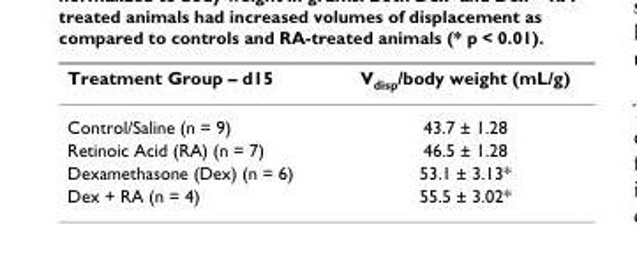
<table><thead><tr><td>Treatment Group – d15</td><td>Vdisp/body weight (mL/g)</td></tr></thead><tbody><tr><td>Control/Saline (n = 9)</td><td>43.7 ± 1.28</td></tr><tr><td>Retinoic Acid (RA) (n = 7)</td><td>46.5 ± 1.28</td></tr><tr><td>Dexamethasone (Dex) (n = 6)</td><td>53.1 ± 3.13*</td></tr><tr><td>Dex + RA (n = 4)</td><td>55.5 ± 3.02*</td></tr></tbody></table>